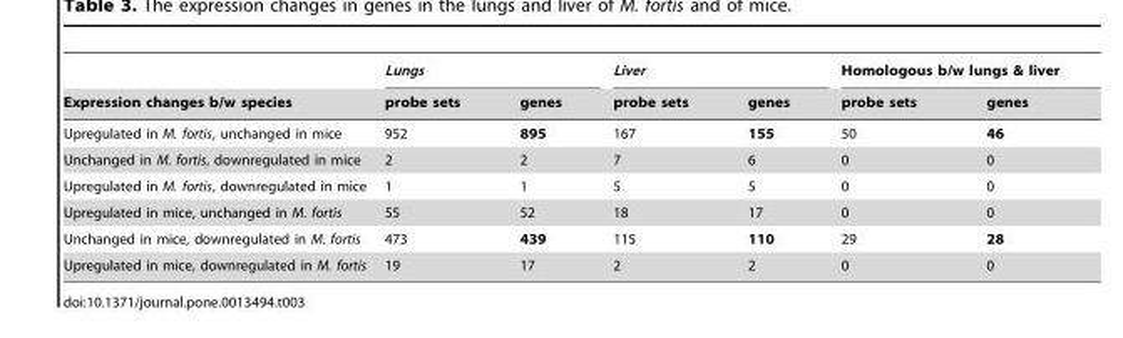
<table><thead><tr><td rowspan="2">Expression changes b/w species</td><td colspan="2">Lungs</td><td colspan="2">Liver</td><td colspan="2">Homologous b/w lungs &amp; liver</td></tr><tr><td>probe sets</td><td>genes</td><td>probe sets</td><td>genes</td><td>probe sets</td><td>genes</td></tr></thead><tbody><tr><td>Upregulated in M. fortis, unchanged in mice</td><td>952</td><td>895</td><td>167</td><td>155</td><td>50</td><td>46</td></tr><tr><td>Unchanged in M. fortis, downregulated in mice</td><td>2</td><td>2</td><td>7</td><td>6</td><td>0</td><td>0</td></tr><tr><td>Upregulated in M. fortis, downregulated in mice</td><td>1</td><td>1</td><td>5</td><td>5</td><td>0</td><td>0</td></tr><tr><td>Upregulated in mice, unchanged in M. fortis</td><td>55</td><td>52</td><td>18</td><td>17</td><td>0</td><td>0</td></tr><tr><td>Unchanged in mice, downregulated in M. fortis</td><td>473</td><td>439</td><td>115</td><td>110</td><td>29</td><td>28</td></tr><tr><td>Upregulated in mice, downregulated in M. fortis</td><td>19</td><td>17</td><td>2</td><td>2</td><td>0</td><td>0</td></tr></tbody></table>